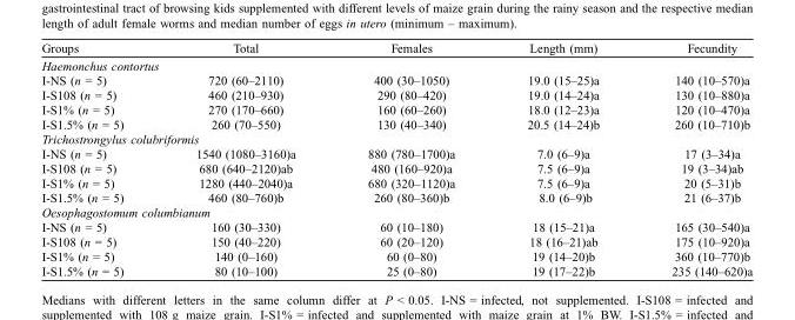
<table><thead><tr><td>Groups</td><td>Total</td><td>Females</td><td>Length (mm)</td><td>Fecundity</td></tr></thead><tbody><tr><td colspan="5">Haemonchus contortus</td></tr><tr><td>I-NS (n = 5)</td><td>720 (60–2110)</td><td>400 (30–1050)</td><td>19.0 (15–25)a</td><td>140 (10–570)a</td></tr><tr><td>I-S108 (n = 5)</td><td>460 (210–930)</td><td>290 (80–420)</td><td>19.0 (14–24)a</td><td>130 (10–880)a</td></tr><tr><td>I-S1% (n = 5)</td><td>270 (170–660)</td><td>160 (60–260)</td><td>18.0 (12–23)a</td><td>120 (10–470)a</td></tr><tr><td>I-S1.5% (n = 5)</td><td>260 (70–550)</td><td>130 (40–340)</td><td>20.5 (14–24)b</td><td>260 (10–710)b</td></tr><tr><td colspan="5">Trichostrongylus colubriformis</td></tr><tr><td>I-NS (n = 5)</td><td>1540 (1080–3160)a</td><td>880 (780–1700)a</td><td>7.0 (6–9)a</td><td>17 (3–34)a</td></tr><tr><td>I-S108 (n = 5)</td><td>680 (640–2120)ab</td><td>480 (160–920)a</td><td>7.5 (6–9)a</td><td>19 (3–34)ab</td></tr><tr><td>I-S1% (n = 5)</td><td>1280 (440–2040)a</td><td>680 (320–1120)a</td><td>7.5 (6–9)a</td><td>20 (5–31)b</td></tr><tr><td>I-S1.5% (n = 5)</td><td>460 (80–760)b</td><td>260 (80–360)b</td><td>8.0 (6–9)b</td><td>21 (6–37)b</td></tr><tr><td colspan="5">Oesophagostomum columbianum</td></tr><tr><td>I-NS (n = 5)</td><td>160 (30–330)</td><td>60 (10–180)</td><td>18 (15–21)a</td><td>165 (30–540)a</td></tr><tr><td>I-S108 (n = 5)</td><td>150 (40–220)</td><td>60 (20–120)</td><td>18 (16–21)ab</td><td>175 (10–920)a</td></tr><tr><td>I-S1% (n = 5)</td><td>140 (0–160)</td><td>60 (0–80)</td><td>19 (14–20)b</td><td>360 (10–770)b</td></tr><tr><td>I-S1.5% (n = 5)</td><td>80 (10–100)</td><td>25 (0–80)</td><td>19 (17–22)b</td><td>235 (140–620)a</td></tr></tbody></table>